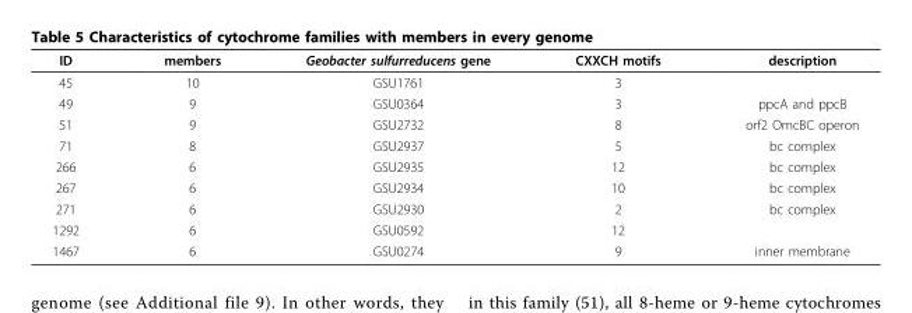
<table><thead><tr><td>ID</td><td>members</td><td>Geobacter sulfurreducens gene</td><td>CXXCH motifs</td><td>description</td></tr></thead><tbody><tr><td>45</td><td>10</td><td>GSU1761</td><td>3</td><td></td></tr><tr><td>49</td><td>9</td><td>GSU0364</td><td>3</td><td>ppcA and ppcB</td></tr><tr><td>51</td><td>9</td><td>GSU2732</td><td>8</td><td>orf2 OmcBC operon</td></tr><tr><td>71</td><td>8</td><td>GSU2937</td><td>5</td><td>bc complex</td></tr><tr><td>266</td><td>6</td><td>GSU2935</td><td>12</td><td>bc complex</td></tr><tr><td>267</td><td>6</td><td>GSU2934</td><td>10</td><td>bc complex</td></tr><tr><td>271</td><td>6</td><td>GSU2930</td><td>2</td><td>bc complex</td></tr><tr><td>1292</td><td>6</td><td>GSU0592</td><td>12</td><td></td></tr><tr><td>1467</td><td>6</td><td>GSU0274</td><td>9</td><td>inner membrane</td></tr></tbody></table>